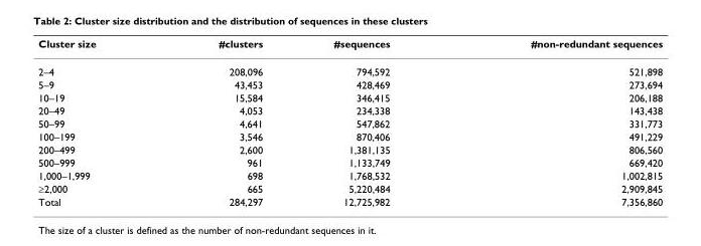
<table><thead><tr><td>Cluster size</td><td>#clusters</td><td>#sequences</td><td>#non-redundant sequences</td></tr></thead><tbody><tr><td>2–4</td><td>208,096</td><td>794,592</td><td>521,898</td></tr><tr><td>5–9</td><td>43,453</td><td>428,469</td><td>273,694</td></tr><tr><td>10–19</td><td>15,584</td><td>346,415</td><td>206,188</td></tr><tr><td>20–49</td><td>4,053</td><td>234,338</td><td>143,438</td></tr><tr><td>50–99</td><td>4,641</td><td>547,862</td><td>331,773</td></tr><tr><td>100–199</td><td>3,546</td><td>870,406</td><td>491,229</td></tr><tr><td>200–499</td><td>2,600</td><td>1,381,135</td><td>806,560</td></tr><tr><td>500–999</td><td>961</td><td>1,133,749</td><td>669,420</td></tr><tr><td>1,000–1,999</td><td>698</td><td>1,768,532</td><td>1,002,815</td></tr><tr><td>≥2,000</td><td>665</td><td>5,220,484</td><td>2,909,845</td></tr><tr><td>Total</td><td>284,297</td><td>12,725,982</td><td>7,356,860</td></tr></tbody></table>